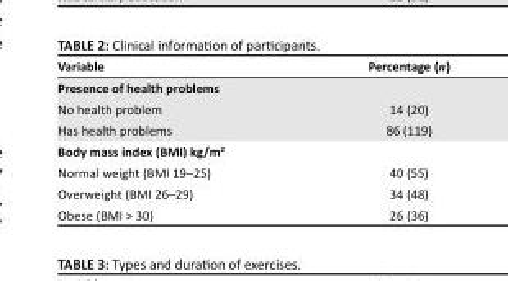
<table><thead><tr><td>Variable</td><td>Percentage (n)</td></tr></thead><tbody><tr><td colspan="2">Presence of health problems</td></tr><tr><td>No health problem</td><td>14 (20)</td></tr><tr><td>Has health problems</td><td>86 (119)</td></tr><tr><td colspan="2">Body mass index (BMI) kg/m<sup>2</sup></td></tr><tr><td>Normal weight (BMI 19–25)</td><td>40 (55)</td></tr><tr><td>Overweight (BMI 26–29)</td><td>34 (48)</td></tr><tr><td>Obese (BMI &gt; 30)</td><td>26 (36)</td></tr></tbody></table>